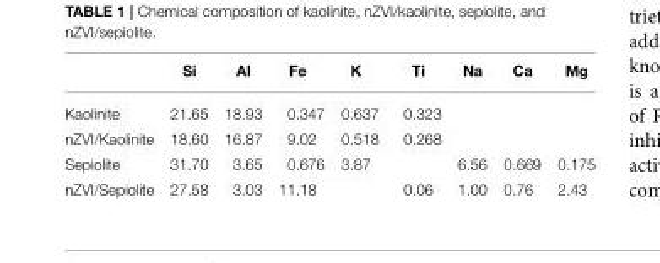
<table><thead><tr><td></td><td>Si</td><td>Al</td><td>Fe</td><td>K</td><td>Ti</td><td>Na</td><td>Ca</td><td>Mg</td></tr></thead><tbody><tr><td>Kaolinite</td><td>21.65</td><td>18.93</td><td>0.347</td><td>0.637</td><td>0.323</td><td></td><td></td><td></td></tr><tr><td>nZVI/Kaolinite</td><td>18.60</td><td>16.87</td><td>9.02</td><td>0.518</td><td>0.268</td><td></td><td></td><td></td></tr><tr><td>Sepiolite</td><td>31.70</td><td>3.65</td><td>0.676</td><td>3.87</td><td></td><td>6.56</td><td>0.669</td><td>0.175</td></tr><tr><td>nZVI/Sepiolite</td><td>27.58</td><td>3.03</td><td>11.18</td><td></td><td>0.06</td><td>1.00</td><td>0.76</td><td>2.43</td></tr></tbody></table>